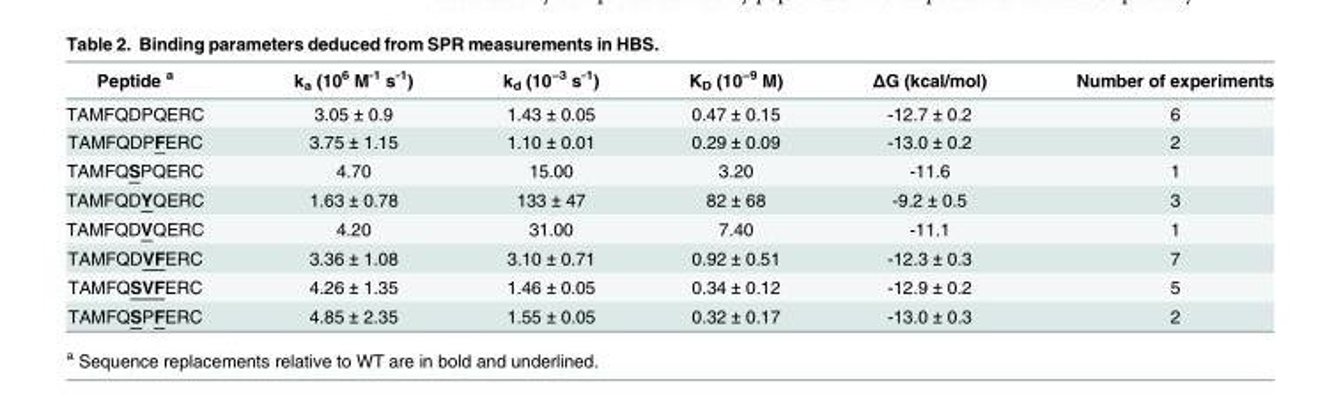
<table><thead><tr><td>Peptide <sup>a</sup></td><td>k<sub>a</sub> (10<sup>6</sup> M<sup>-1</sup> s<sup>-1</sup>)</td><td>k<sub>d</sub> (10<sup>−3</sup> s<sup>-1</sup>)</td><td>K<sub>D</sub> (10<sup>−9</sup> M)</td><td>ΔG (kcal/mol)</td><td>Number of experiments</td></tr></thead><tbody><tr><td>TAMFQDPQERC</td><td>3.05 ± 0.9</td><td>1.43 ± 0.05</td><td>0.47 ± 0.15</td><td>-12.7 ± 0.2</td><td>6</td></tr><tr><td>TAMFQDPFERC</td><td>3.75 ± 1.15</td><td>1.10 ± 0.01</td><td>0.29 ± 0.09</td><td>-13.0 ± 0.2</td><td>2</td></tr><tr><td>TAMFQSPQERC</td><td>4.70</td><td>15.00</td><td>3.20</td><td>-11.6</td><td>1</td></tr><tr><td>TAMFQDYQERC</td><td>1.63 ± 0.78</td><td>133 ± 47</td><td>82 ± 68</td><td>-9.2 ± 0.5</td><td>3</td></tr><tr><td>TAMFQDVQERC</td><td>4.20</td><td>31.00</td><td>7.40</td><td>-11.1</td><td>1</td></tr><tr><td>TAMFQDVFERC</td><td>3.36 ± 1.08</td><td>3.10 ± 0.71</td><td>0.92 ± 0.51</td><td>-12.3 ± 0.3</td><td>7</td></tr><tr><td>TAMFQSVFERC</td><td>4.26 ± 1.35</td><td>1.46 ± 0.05</td><td>0.34 ± 0.12</td><td>-12.9 ± 0.2</td><td>5</td></tr><tr><td>TAMFQSPFERC</td><td>4.85 ± 2.35</td><td>1.55 ± 0.05</td><td>0.32 ± 0.17</td><td>-13.0 ± 0.3</td><td>2</td></tr></tbody></table>